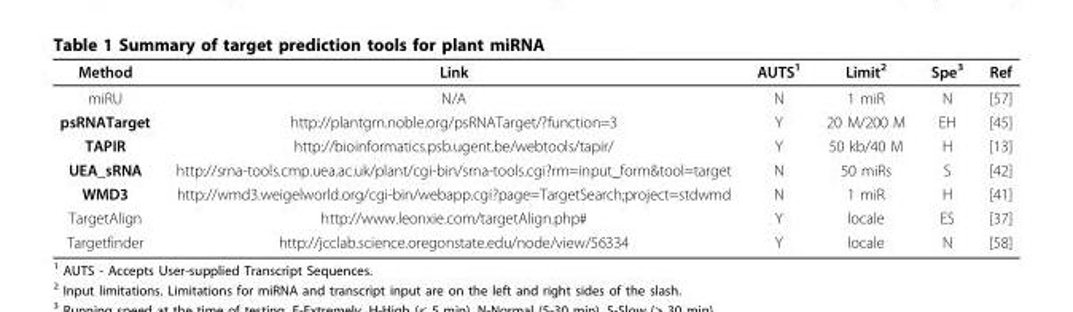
<table><thead><tr><td>Method</td><td>Link</td><td>AUTS<sup>1</sup></td><td>Limit<sup>2</sup></td><td>Spe<sup>3</sup></td><td>Ref</td></tr></thead><tbody><tr><td>miRU</td><td>N/A</td><td>N</td><td>1 miR</td><td>N</td><td>[57]</td></tr><tr><td>psRNATarget</td><td>http://plantgrn.noble.org/psRNATarget/?function=3</td><td>Y</td><td>20 M/200 M</td><td>EH</td><td>[45]</td></tr><tr><td>TAPIR</td><td>http://bioinformatics.psb.ugent.be/webtools/tapir/</td><td>Y</td><td>50 kb/40 M</td><td>H</td><td>[13]</td></tr><tr><td>UEA_sRNA</td><td>http://srna-tools.cmp.uea.ac.uk/plant/cgi-bin/srna-tools.cgi?rm=input_form&amp;tool=target</td><td>N</td><td>50 miRs</td><td>S</td><td>[42]</td></tr><tr><td>WMD3</td><td>http://wmd3.weigelworld.org/cgi-bin/webapp.cgi?page=TargetSearch;project=stdwmd</td><td>N</td><td>1 miR</td><td>H</td><td>[41]</td></tr><tr><td>TargetAlign</td><td>http://www.leonxie.com/targetAlign.php#</td><td>Y</td><td>locale</td><td>ES</td><td>[37]</td></tr><tr><td>Targetfinder</td><td>http://jcclab.science.oregonstate.edu/node/view/56334</td><td>Y</td><td>locale</td><td>N</td><td>[58]</td></tr></tbody></table>